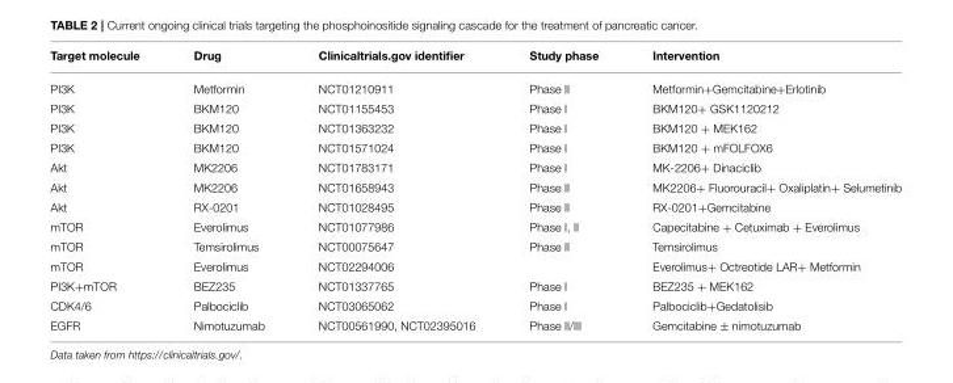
<table><thead><tr><td>Target molecule</td><td>Drug</td><td>Clinicaltrials.gov identifier</td><td>Study phase</td><td>Intervention</td></tr></thead><tbody><tr><td>PI3K</td><td>Metformin</td><td>NCT01210911</td><td>Phase II</td><td>Metformin+Gemcitabine+Erlotinib</td></tr><tr><td>PI3K</td><td>BKM120</td><td>NCT01155453</td><td>Phase I</td><td>BKM120+ GSK1120212</td></tr><tr><td>PI3K</td><td>BKM120</td><td>NCT01363232</td><td>Phase I</td><td>BKM120 + MEK162</td></tr><tr><td>PI3K</td><td>BKM120</td><td>NCT01571024</td><td>Phase I</td><td>BKM120 + mFOLFOX6</td></tr><tr><td>Akt</td><td>MK2206</td><td>NCT01783171</td><td>Phase I</td><td>MK-2206+ Dinaciclib</td></tr><tr><td>Akt</td><td>MK2206</td><td>NCT01658943</td><td>Phase II</td><td>MK2206+ Fluorouracil+ Oxaliplatin+ Selumetinib</td></tr><tr><td>Akt</td><td>RX-0201</td><td>NCT01028495</td><td>Phase II</td><td>RX-0201+Gemcitabine</td></tr><tr><td>mTOR</td><td>Everolimus</td><td>NCT01077986</td><td>Phase I, II</td><td>Capecitabine + Cetuximab + Everolimus</td></tr><tr><td>mTOR</td><td>Temsirolimus</td><td>NCT00075647</td><td>Phase II</td><td>Temsirolimus</td></tr><tr><td>mTOR</td><td>Everolimus</td><td>NCT02294006</td><td></td><td>Everolimus+ Octreotide LAR+ Metformin</td></tr><tr><td>PI3K+mTOR</td><td>BEZ235</td><td>NCT01337765</td><td>Phase I</td><td>BEZ235 + MEK162</td></tr><tr><td>CDK4/6</td><td>Palbociclib</td><td>NCT03065062</td><td>Phase I</td><td>Palbociclib+Gedatolisib</td></tr><tr><td>EGFR</td><td>Nimotuzumab</td><td>NCT00561990, NCT02395016</td><td>Phase II/III</td><td>Gemcitabine ± nimotuzumab</td></tr></tbody></table>